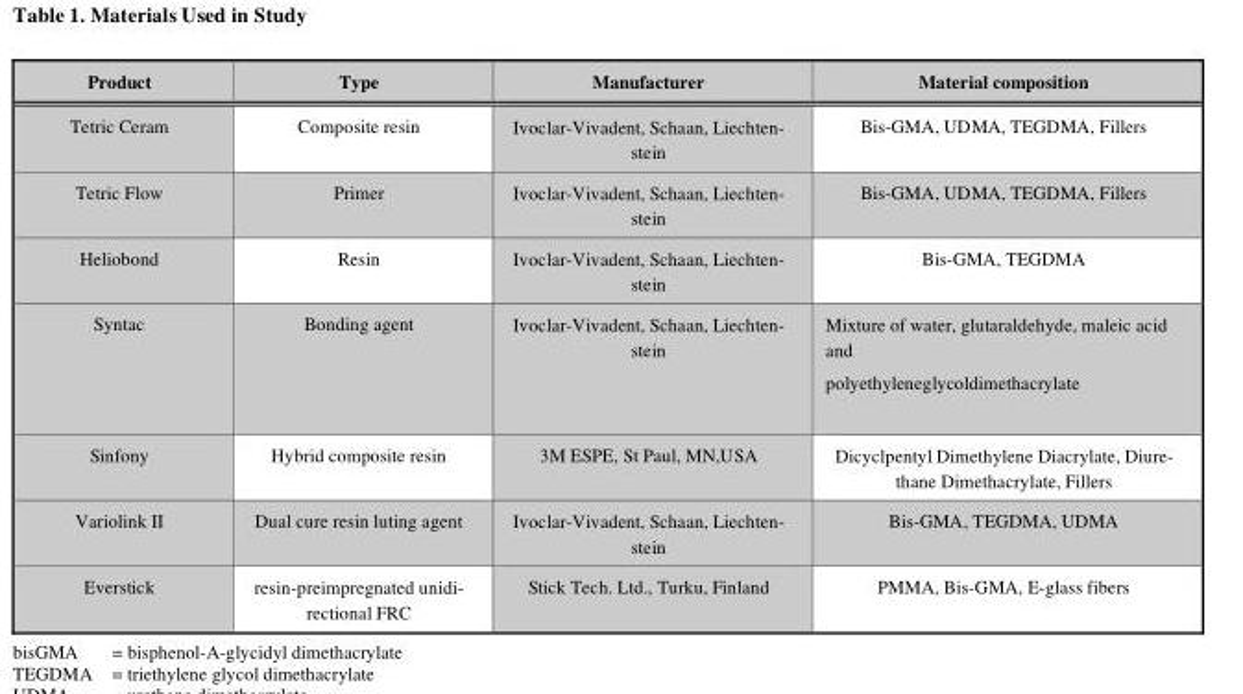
<table><thead><tr><td>Product</td><td>Type</td><td>Manufacturer</td><td>Material composition</td></tr></thead><tbody><tr><td>Tetric Ceram</td><td>Composite resin</td><td>Ivoclar-Vivadent, Schaan, Liechten- stein</td><td>Bis-GMA, UDMA, TEGDMA, Fillers</td></tr><tr><td>Tetric Flow</td><td>Primer</td><td>Ivoclar-Vivadent, Schaan, Liechten- stein</td><td>Bis-GMA, UDMA, TEGDMA, Fillers</td></tr><tr><td>Heliobond</td><td>Resin</td><td>Ivoclar-Vivadent, Schaan, Liechten- stein</td><td>Bis-GMA, TEGDMA</td></tr><tr><td>Syntac</td><td>Bonding agent</td><td>Ivoclar-Vivadent, Schaan, Liechten- stein</td><td>Mixture of water, glutaraldehyde, maleic acid and polyethyleneglycoldimethacrylate</td></tr><tr><td>Sinfony</td><td>Hybrid composite resin</td><td>3M ESPE, St Paul, MN,USA</td><td>Dicyclpentyl Dimethylene Diacrylate, Diure- thane Dimethacrylate, Fillers</td></tr><tr><td>Variolink II</td><td>Dual cure resin luting agent</td><td>Ivoclar-Vivadent, Schaan, Liechten- stein</td><td>Bis-GMA, TEGDMA, UDMA</td></tr><tr><td>Everstick</td><td>resin-preimpregnated unidi- rectional FRC</td><td>Stick Tech. Ltd., Turku, Finland</td><td>PMMA, Bis-GMA, E-glass fibers</td></tr></tbody></table>